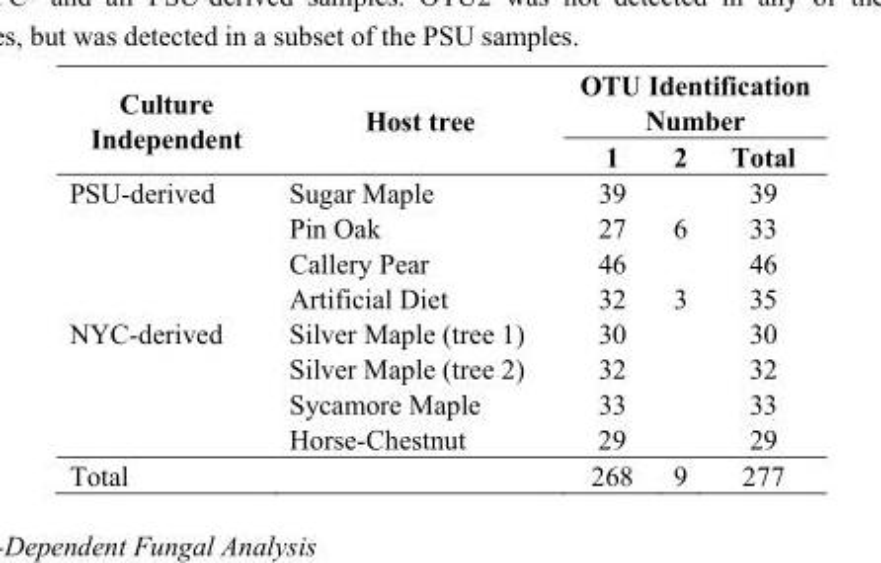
<table><thead><tr><td rowspan="2">Culture Independent</td><td rowspan="2">Host tree</td><td colspan="3">OTU Identification Number</td></tr><tr><td>1</td><td>2</td><td>Total</td></tr></thead><tbody><tr><td rowspan="4">PSU-derived</td><td>Sugar Maple</td><td>39</td><td></td><td>39</td></tr><tr><td>Pin Oak</td><td>27</td><td>6</td><td>33</td></tr><tr><td>Callery Pear</td><td>46</td><td></td><td>46</td></tr><tr><td>Artificial Diet</td><td>32</td><td>3</td><td>35</td></tr><tr><td rowspan="4">NYC-derived</td><td>Silver Maple (tree 1)</td><td>30</td><td></td><td>30</td></tr><tr><td>Silver Maple (tree 2)</td><td>32</td><td></td><td>32</td></tr><tr><td>Sycamore Maple</td><td>33</td><td></td><td>33</td></tr><tr><td>Horse-Chestnut</td><td>29</td><td></td><td>29</td></tr><tr><td>Total</td><td></td><td>268</td><td>9</td><td>277</td></tr></tbody></table>